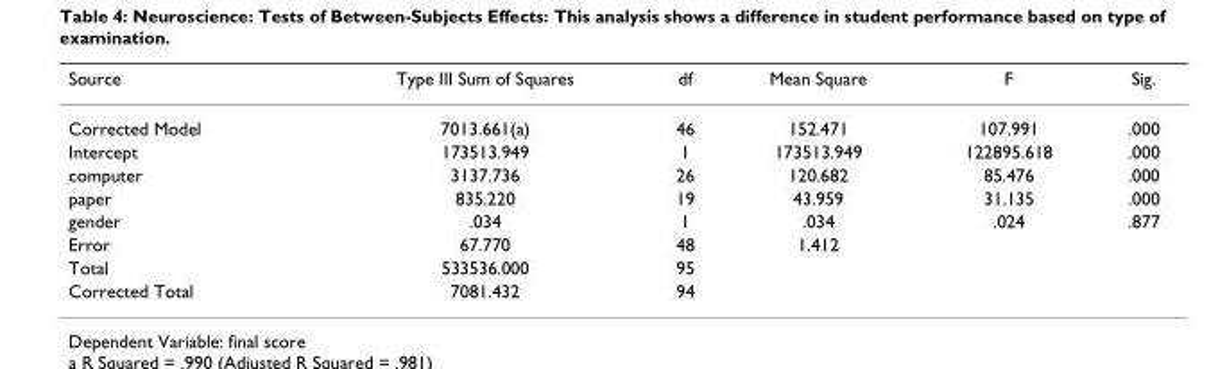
<table><thead><tr><td>Source</td><td>Type III Sum of Squares</td><td>df</td><td>Mean Square</td><td>F</td><td>Sig.</td></tr></thead><tbody><tr><td>Corrected Model</td><td>7013.661(a)</td><td>46</td><td>152.471</td><td>107.991</td><td>.000</td></tr><tr><td>Intercept</td><td>173513.949</td><td>1</td><td>173513.949</td><td>122895.618</td><td>.000</td></tr><tr><td>computer</td><td>3137.736</td><td>26</td><td>120.682</td><td>85.476</td><td>.000</td></tr><tr><td>paper</td><td>835.220</td><td>19</td><td>43.959</td><td>31.135</td><td>.000</td></tr><tr><td>gender</td><td>.034</td><td>1</td><td>.034</td><td>.024</td><td>.877</td></tr><tr><td>Error</td><td>67.770</td><td>48</td><td>1.412</td><td></td><td></td></tr><tr><td>Total</td><td>533536.000</td><td>95</td><td></td><td></td><td></td></tr><tr><td>Corrected Total</td><td>7081.432</td><td>94</td><td></td><td></td><td></td></tr></tbody></table>